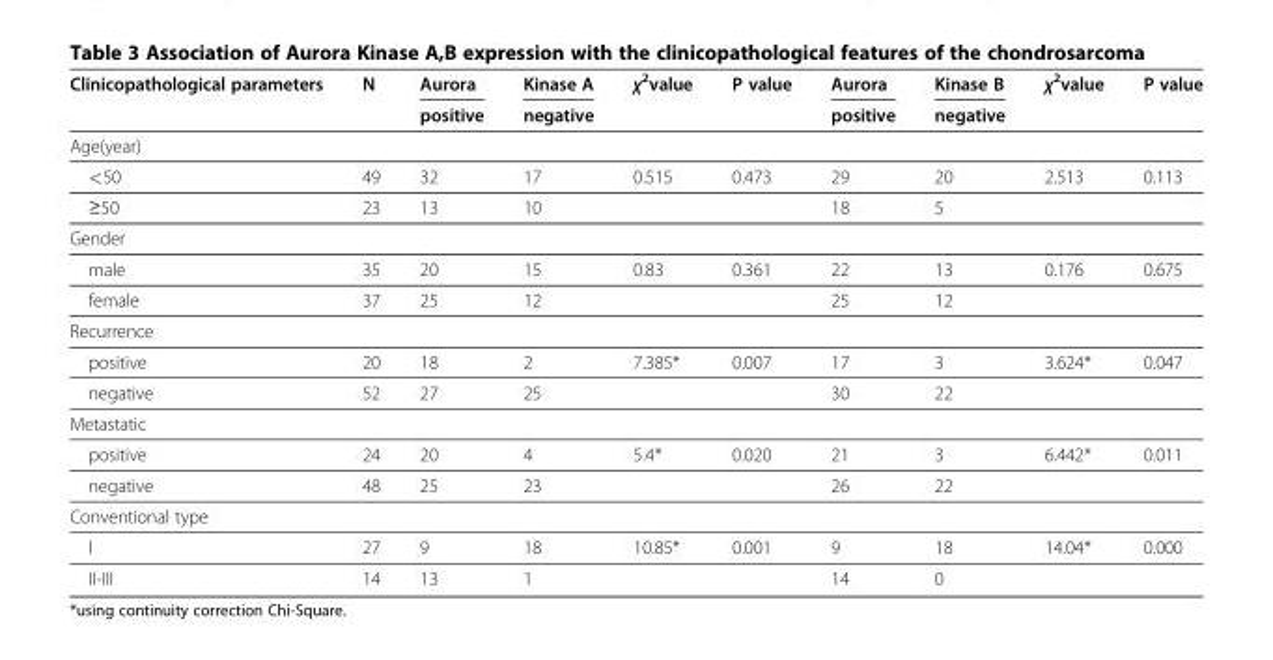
<table><thead><tr><td rowspan="2">Clinicopathological parameters</td><td rowspan="2">N</td><td rowspan="2">Aurora positive</td><td rowspan="2">Kinase A negative</td><td rowspan="2">χ<sup>2</sup>value</td><td rowspan="2">P value</td><td rowspan="2">Aurora positive</td><td rowspan="2">Kinase B negative</td><td rowspan="2">χ<sup>2</sup>value</td><td rowspan="2">P value</td></tr><tr></tr></thead><tbody><tr><td colspan="10">Age(year)</td></tr><tr><td>&lt;50</td><td>49</td><td>32</td><td>17</td><td>0.515</td><td>0.473</td><td>29</td><td>20</td><td>2.513</td><td>0.113</td></tr><tr><td>≥50</td><td>23</td><td>13</td><td>10</td><td></td><td></td><td>18</td><td>5</td><td></td><td></td></tr><tr><td colspan="10">Gender</td></tr><tr><td>male</td><td>35</td><td>20</td><td>15</td><td>0.83</td><td>0.361</td><td>22</td><td>13</td><td>0.176</td><td>0.675</td></tr><tr><td>female</td><td>37</td><td>25</td><td>12</td><td></td><td></td><td>25</td><td>12</td><td></td><td></td></tr><tr><td colspan="10">Recurrence</td></tr><tr><td>positive</td><td>20</td><td>18</td><td>2</td><td>7.385*</td><td>0.007</td><td>17</td><td>3</td><td>3.624*</td><td>0.047</td></tr><tr><td>negative</td><td>52</td><td>27</td><td>25</td><td></td><td></td><td>30</td><td>22</td><td></td><td></td></tr><tr><td colspan="10">Metastatic</td></tr><tr><td>positive</td><td>24</td><td>20</td><td>4</td><td>5.4*</td><td>0.020</td><td>21</td><td>3</td><td>6.442*</td><td>0.011</td></tr><tr><td>negative</td><td>48</td><td>25</td><td>23</td><td></td><td></td><td>26</td><td>22</td><td></td><td></td></tr><tr><td colspan="10">Conventional type</td></tr><tr><td>I</td><td>27</td><td>9</td><td>18</td><td>10.85*</td><td>0.001</td><td>9</td><td>18</td><td>14.04*</td><td>0.000</td></tr><tr><td>II-III</td><td>14</td><td>13</td><td>1</td><td></td><td></td><td>14</td><td>0</td><td></td><td></td></tr></tbody></table>